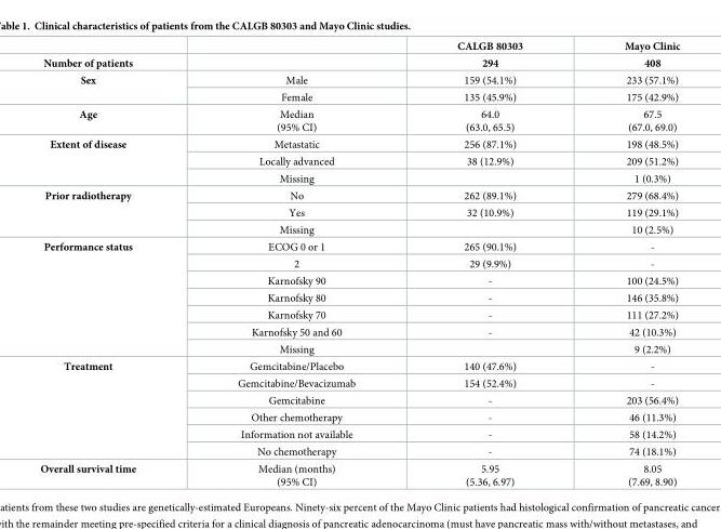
<table><thead><tr><td rowspan="2">Number of patients</td><td rowspan="2"></td><td rowspan="2">CALGB 80303 294</td><td rowspan="2">Mayo Clinic 408</td></tr><tr></tr></thead><tbody><tr><td rowspan="2">Sex</td><td>Male</td><td>159 (54.1%)</td><td>233 (57.1%)</td></tr><tr><td>Female</td><td>135 (45.9%)</td><td>175 (42.9%)</td></tr><tr><td>Age</td><td>Median (95% CI)</td><td>64.0 (63.0, 65.5)</td><td>67.5 (67.0, 69.0)</td></tr><tr><td rowspan="3">Extent of disease</td><td>Metastatic</td><td>256 (87.1%)</td><td>198 (48.5%)</td></tr><tr><td>Locally advanced</td><td>38 (12.9%)</td><td>209 (51.2%)</td></tr><tr><td>Missing</td><td></td><td>1 (0.3%)</td></tr><tr><td rowspan="3">Prior radiotherapy</td><td>No</td><td>262 (89.1%)</td><td>279 (68.4%)</td></tr><tr><td>Yes</td><td>32 (10.9%)</td><td>119 (29.1%)</td></tr><tr><td>Missing</td><td></td><td>10 (2.5%)</td></tr><tr><td rowspan="7">Performance status</td><td>ECOG 0 or 1</td><td>265 (90.1%)</td><td>-</td></tr><tr><td>2</td><td>29 (9.9%)</td><td>-</td></tr><tr><td>Karnofsky 90</td><td>-</td><td>100 (24.5%)</td></tr><tr><td>Karnofsky 80</td><td>-</td><td>146 (35.8%)</td></tr><tr><td>Karnofsky 70</td><td>-</td><td>111 (27.2%)</td></tr><tr><td>Karnofsky 50 and 60</td><td>-</td><td>42 (10.3%)</td></tr><tr><td>Missing</td><td></td><td>9 (2.2%)</td></tr><tr><td rowspan="6">Treatment</td><td>Gemcitabine/Placebo</td><td>140 (47.6%)</td><td>-</td></tr><tr><td>Gemcitabine/Bevacizumab</td><td>154 (52.4%)</td><td>-</td></tr><tr><td>Gemcitabine</td><td>-</td><td>203 (56.4%)</td></tr><tr><td>Other chemotherapy</td><td>-</td><td>46 (11.3%)</td></tr><tr><td>Information not available</td><td>-</td><td>58 (14.2%)</td></tr><tr><td>No chemotherapy</td><td>-</td><td>74 (18.1%)</td></tr><tr><td>Overall survival time</td><td>Median (months) (95% CI)</td><td>5.95 (5.36, 6.97)</td><td>8.05 (7.69, 8.90)</td></tr></tbody></table>